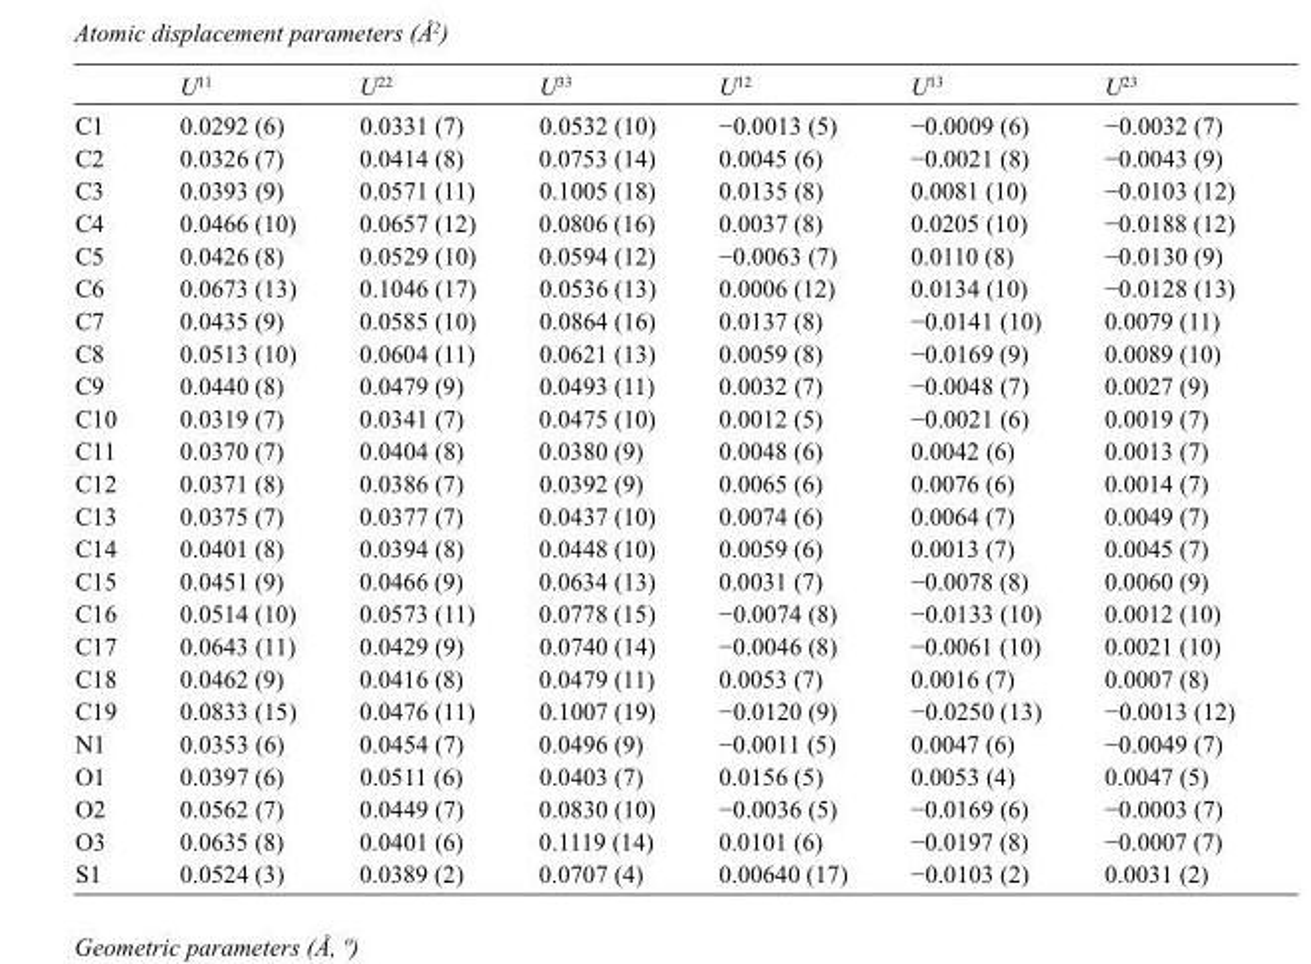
<table><thead><tr><td></td><td>U<sup>11</sup></td><td>U<sup>22</sup></td><td>U<sup>33</sup></td><td>U<sup>12</sup></td><td>U<sup>13</sup></td><td>U<sup>23</sup></td></tr></thead><tbody><tr><td>C1</td><td>0.0292 (6)</td><td>0.0331 (7)</td><td>0.0532 (10)</td><td>−0.0013 (5)</td><td>−0.0009 (6)</td><td>−0.0032 (7)</td></tr><tr><td>C2</td><td>0.0326 (7)</td><td>0.0414 (8)</td><td>0.0753 (14)</td><td>0.0045 (6)</td><td>−0.0021 (8)</td><td>−0.0043 (9)</td></tr><tr><td>C3</td><td>0.0393 (9)</td><td>0.0571 (11)</td><td>0.1005 (18)</td><td>0.0135 (8)</td><td>0.0081 (10)</td><td>−0.0103 (12)</td></tr><tr><td>C4</td><td>0.0466 (10)</td><td>0.0657 (12)</td><td>0.0806 (16)</td><td>0.0037 (8)</td><td>0.0205 (10)</td><td>−0.0188 (12)</td></tr><tr><td>C5</td><td>0.0426 (8)</td><td>0.0529 (10)</td><td>0.0594 (12)</td><td>−0.0063 (7)</td><td>0.0110 (8)</td><td>−0.0130 (9)</td></tr><tr><td>C6</td><td>0.0673 (13)</td><td>0.1046 (17)</td><td>0.0536 (13)</td><td>0.0006 (12)</td><td>0.0134 (10)</td><td>−0.0128 (13)</td></tr><tr><td>C7</td><td>0.0435 (9)</td><td>0.0585 (10)</td><td>0.0864 (16)</td><td>0.0137 (8)</td><td>−0.0141 (10)</td><td>0.0079 (11)</td></tr><tr><td>C8</td><td>0.0513 (10)</td><td>0.0604 (11)</td><td>0.0621 (13)</td><td>0.0059 (8)</td><td>−0.0169 (9)</td><td>0.0089 (10)</td></tr><tr><td>C9</td><td>0.0440 (8)</td><td>0.0479 (9)</td><td>0.0493 (11)</td><td>0.0032 (7)</td><td>−0.0048 (7)</td><td>0.0027 (9)</td></tr><tr><td>C10</td><td>0.0319 (7)</td><td>0.0341 (7)</td><td>0.0475 (10)</td><td>0.0012 (5)</td><td>−0.0021 (6)</td><td>0.0019 (7)</td></tr><tr><td>C11</td><td>0.0370 (7)</td><td>0.0404 (8)</td><td>0.0380 (9)</td><td>0.0048 (6)</td><td>0.0042 (6)</td><td>0.0013 (7)</td></tr><tr><td>C12</td><td>0.0371 (8)</td><td>0.0386 (7)</td><td>0.0392 (9)</td><td>0.0065 (6)</td><td>0.0076 (6)</td><td>0.0014 (7)</td></tr><tr><td>C13</td><td>0.0375 (7)</td><td>0.0377 (7)</td><td>0.0437 (10)</td><td>0.0074 (6)</td><td>0.0064 (7)</td><td>0.0049 (7)</td></tr><tr><td>C14</td><td>0.0401 (8)</td><td>0.0394 (8)</td><td>0.0448 (10)</td><td>0.0059 (6)</td><td>0.0013 (7)</td><td>0.0045 (7)</td></tr><tr><td>C15</td><td>0.0451 (9)</td><td>0.0466 (9)</td><td>0.0634 (13)</td><td>0.0031 (7)</td><td>−0.0078 (8)</td><td>0.0060 (9)</td></tr><tr><td>C16</td><td>0.0514 (10)</td><td>0.0573 (11)</td><td>0.0778 (15)</td><td>−0.0074 (8)</td><td>−0.0133 (10)</td><td>0.0012 (10)</td></tr><tr><td>C17</td><td>0.0643 (11)</td><td>0.0429 (9)</td><td>0.0740 (14)</td><td>−0.0046 (8)</td><td>−0.0061 (10)</td><td>0.0021 (10)</td></tr><tr><td>C18</td><td>0.0462 (9)</td><td>0.0416 (8)</td><td>0.0479 (11)</td><td>0.0053 (7)</td><td>0.0016 (7)</td><td>0.0007 (8)</td></tr><tr><td>C19</td><td>0.0833 (15)</td><td>0.0476 (11)</td><td>0.1007 (19)</td><td>−0.0120 (9)</td><td>−0.0250 (13)</td><td>−0.0013 (12)</td></tr><tr><td>N1</td><td>0.0353 (6)</td><td>0.0454 (7)</td><td>0.0496 (9)</td><td>−0.0011 (5)</td><td>0.0047 (6)</td><td>−0.0049 (7)</td></tr><tr><td>O1</td><td>0.0397 (6)</td><td>0.0511 (6)</td><td>0.0403 (7)</td><td>0.0156 (5)</td><td>0.0053 (4)</td><td>0.0047 (5)</td></tr><tr><td>O2</td><td>0.0562 (7)</td><td>0.0449 (7)</td><td>0.0830 (10)</td><td>−0.0036 (5)</td><td>−0.0169 (6)</td><td>−0.0003 (7)</td></tr><tr><td>O3</td><td>0.0635 (8)</td><td>0.0401 (6)</td><td>0.1119 (14)</td><td>0.0101 (6)</td><td>−0.0197 (8)</td><td>−0.0007 (7)</td></tr><tr><td>S1</td><td>0.0524 (3)</td><td>0.0389 (2)</td><td>0.0707 (4)</td><td>0.00640 (17)</td><td>−0.0103 (2)</td><td>0.0031 (2)</td></tr></tbody></table>